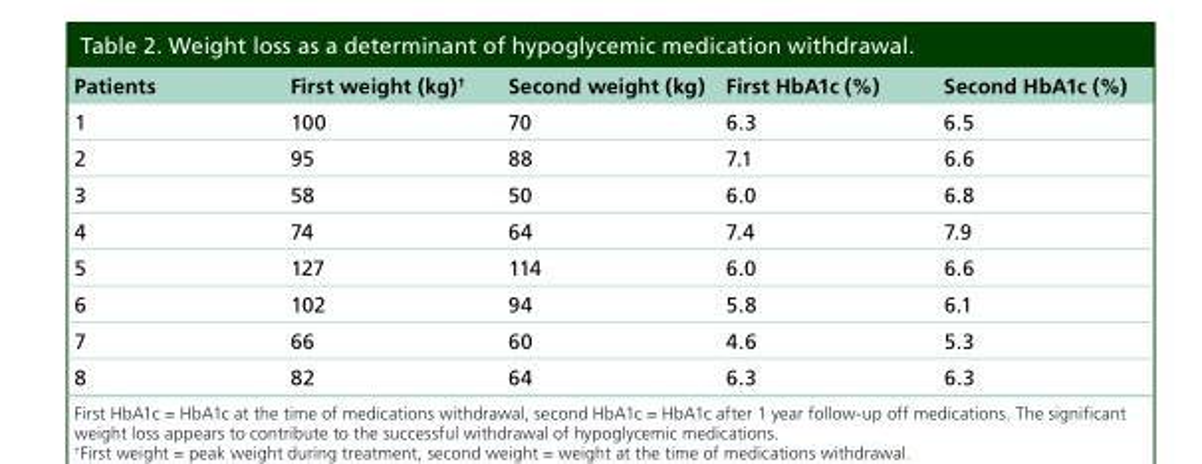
<table><thead><tr><td>Patients</td><td>First weight (kg)<sup>†</sup></td><td>Second weight (kg)</td><td>First HbA1c (%)</td><td>Second HbA1c (%)</td></tr></thead><tbody><tr><td>1</td><td>100</td><td>70</td><td>6.3</td><td>6.5</td></tr><tr><td>2</td><td>95</td><td>88</td><td>7.1</td><td>6.6</td></tr><tr><td>3</td><td>58</td><td>50</td><td>6.0</td><td>6.8</td></tr><tr><td>4</td><td>74</td><td>64</td><td>7.4</td><td>7.9</td></tr><tr><td>5</td><td>127</td><td>114</td><td>6.0</td><td>6.6</td></tr><tr><td>6</td><td>102</td><td>94</td><td>5.8</td><td>6.1</td></tr><tr><td>7</td><td>66</td><td>60</td><td>4.6</td><td>5.3</td></tr><tr><td>8</td><td>82</td><td>64</td><td>6.3</td><td>6.3</td></tr></tbody></table>